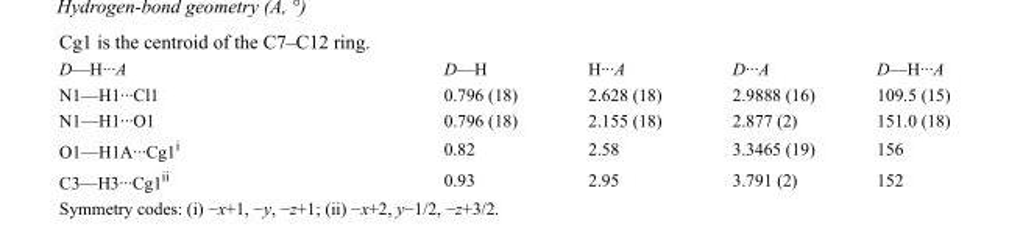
<table><tbody><tr><td>D—H···A</td><td>D—H</td><td>H···A</td><td>D···A</td><td>D—H···A</td></tr><tr><td>N1—H1···Cl1</td><td>0.796 (18)</td><td>2.628 (18)</td><td>2.9888 (16)</td><td>109.5 (15)</td></tr><tr><td>N1—H1···O1</td><td>0.796 (18)</td><td>2.155 (18)</td><td>2.877 (2)</td><td>151.0 (18)</td></tr><tr><td>O1—H1A···Cg1<sup>i</sup></td><td>0.82</td><td>2.58</td><td>3.3465 (19)</td><td>156</td></tr><tr><td>C3—H3···Cg1<sup>ii</sup></td><td>0.93</td><td>2.95</td><td>3.791 (2)</td><td>152</td></tr></tbody></table>